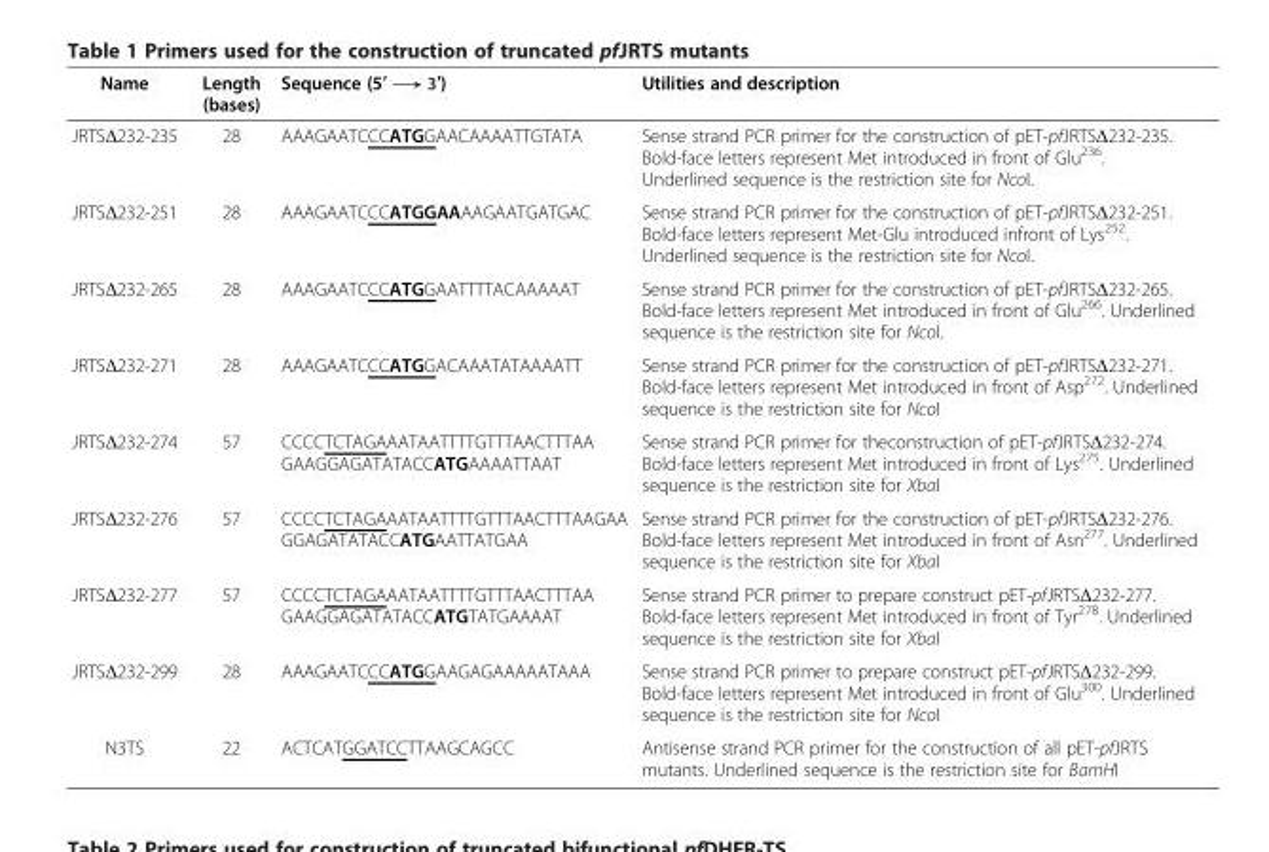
<table><thead><tr><td>Name</td><td>Length (bases)</td><td>Sequence (5′ ⟶ 3′)</td><td>Utilities and description</td></tr></thead><tbody><tr><td>JRTSΔ232-235</td><td>28</td><td>AAAGAATCCCATGGAACAAAATTGTATA</td><td>Sense strand PCR primer for the construction of pET-pfJRTSΔ232-235. Bold-face letters represent Met introduced in front of Glu<sup>236</sup>. Underlined sequence is the restriction site for NcoI.</td></tr><tr><td>JRTSΔ232-251</td><td>28</td><td>AAAGAATCCCATGGAAAAGAATGATGAC</td><td>Sense strand PCR primer for the construction of pET-pfJRTSΔ232-251. Bold-face letters represent Met-Glu introduced infront of Lys<sup>252</sup>. Underlined sequence is the restriction site for NcoI.</td></tr><tr><td>JRTSΔ232-265</td><td>28</td><td>AAAGAATCCCATGGAATTTTACAAAAAT</td><td>Sense strand PCR primer for the construction of pET-pfJRTSΔ232-265. Bold-face letters represent Met introduced in front of Glu<sup>266</sup>. Underlined sequence is the restriction site for NcoI.</td></tr><tr><td>JRTSΔ232-271</td><td>28</td><td>AAAGAATCCCATGGACAAATATAAAATT</td><td>Sense strand PCR primer for the construction of pET-pfJRTSΔ232-271. Bold-face letters represent Met introduced in front of Asp<sup>272</sup>. Underlined sequence is the restriction site for NcoI</td></tr><tr><td>JRTSΔ232-274</td><td>57</td><td>CCCCTCTAGAAATAATTTTGTTTAACTTTAA GAAGGAGATATACCATGAAAATTAAT</td><td>Sense strand PCR primer for theconstruction of pET-pfJRTSΔ232-274. Bold-face letters represent Met introduced in front of Lys<sup>275</sup>. Underlined sequence is the restriction site for XbaI</td></tr><tr><td>JRTSΔ232-276</td><td>57</td><td>CCCCTCTAGAAATAATTTTGTTTAACTTTAAGAA GGAGATATACCATGAATTATGAA</td><td>Sense strand PCR primer for the construction of pET-pfJRTSΔ232-276. Bold-face letters represent Met introduced in front of Asn<sup>277</sup>. Underlined sequence is the restriction site for XbaI</td></tr><tr><td>JRTSΔ232-277</td><td>57</td><td>CCCCTCTAGAAATAATTTTGTTTAACTTTAA GAAGGAGATATACCATGTATGAAAAT</td><td>Sense strand PCR primer to prepare construct pET-pfJRTSΔ232-277. Bold-face letters represent Met introduced in front of Tyr<sup>278</sup>. Underlined sequence is the restriction site for XbaI</td></tr><tr><td>JRTSΔ232-299</td><td>28</td><td>AAAGAATCCCATGGAAGAGAAAAATAAA</td><td>Sense strand PCR primer to prepare construct pET-pfJRTSΔ232-299. Bold-face letters represent Met introduced in front of Glu<sup>300</sup>. Underlined sequence is the restriction site for NcoI</td></tr><tr><td>N3TS</td><td>22</td><td>ACTCATGGATCCTTAAGCAGCC</td><td>Antisense strand PCR primer for the construction of all pET-pfJRTS mutants. Underlined sequence is the restriction site for BamHI</td></tr></tbody></table>